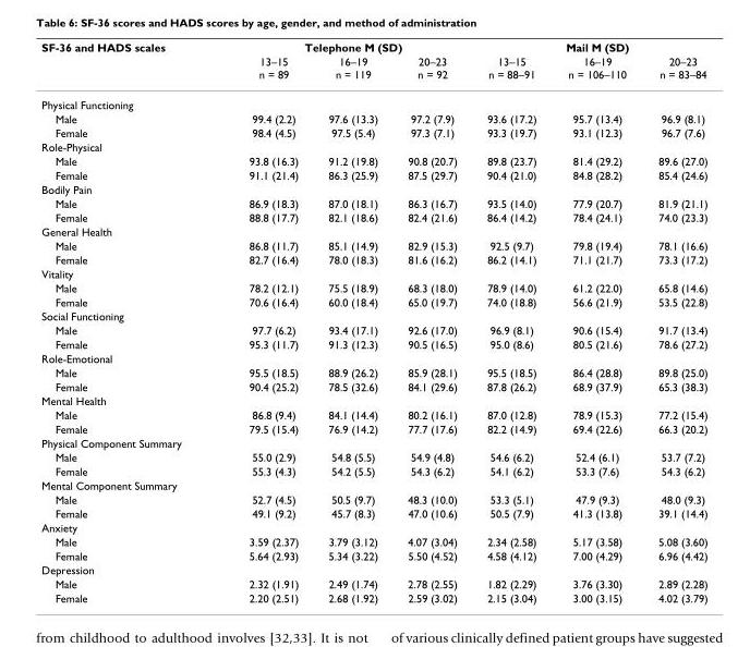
<table><thead><tr><td rowspan="2">SF-36 and HADS scales</td><td colspan="3">Telephone M (SD)</td><td colspan="3">Mail M (SD)</td></tr><tr><td>13–15 n = 89</td><td>16–19 n = 119</td><td>20–23 n = 92</td><td>13–15 n = 88–91</td><td>16–19 n = 106–110</td><td>20–23 n = 83–84</td></tr></thead><tbody><tr><td colspan="7">Physical Functioning</td></tr><tr><td>Male</td><td>99.4 (2.2)</td><td>97.6 (13.3)</td><td>97.2 (7.9)</td><td>93.6 (17.2)</td><td>95.7 (13.4)</td><td>96.9 (8.1)</td></tr><tr><td>Female</td><td>98.4 (4.5)</td><td>97.5 (5.4)</td><td>97.3 (7.1)</td><td>93.3 (19.7)</td><td>93.1 (12.3)</td><td>96.7 (7.6)</td></tr><tr><td colspan="7">Role-Physical</td></tr><tr><td>Male</td><td>93.8 (16.3)</td><td>91.2 (19.8)</td><td>90.8 (20.7)</td><td>89.8 (23.7)</td><td>81.4 (29.2)</td><td>89.6 (27.0)</td></tr><tr><td>Female</td><td>91.1 (21.4)</td><td>86.3 (25.9)</td><td>87.5 (29.7)</td><td>90.4 (21.0)</td><td>84.8 (28.2)</td><td>85.4 (24.6)</td></tr><tr><td colspan="7">Bodily Pain</td></tr><tr><td>Male</td><td>86.9 (18.3)</td><td>87.0 (18.1)</td><td>86.3 (16.7)</td><td>93.5 (14.0)</td><td>77.9 (20.7)</td><td>81.9 (21.1)</td></tr><tr><td>Female</td><td>88.8 (17.7)</td><td>82.1 (18.6)</td><td>82.4 (21.6)</td><td>86.4 (14.2)</td><td>78.4 (24.1)</td><td>74.0 (23.3)</td></tr><tr><td colspan="7">General Health</td></tr><tr><td>Male</td><td>86.8 (11.7)</td><td>85.1 (14.9)</td><td>82.9 (15.3)</td><td>92.5 (9.7)</td><td>79.8 (19.4)</td><td>78.1 (16.6)</td></tr><tr><td>Female</td><td>82.7 (16.4)</td><td>78.0 (18.3)</td><td>81.6 (16.2)</td><td>86.2 (14.1)</td><td>71.1 (21.7)</td><td>73.3 (17.2)</td></tr><tr><td colspan="7">Vitality</td></tr><tr><td>Male</td><td>78.2 (12.1)</td><td>75.5 (18.9)</td><td>68.3 (18.0)</td><td>78.9 (14.0)</td><td>61.2 (22.0)</td><td>65.8 (14.6)</td></tr><tr><td>Female</td><td>70.6 (16.4)</td><td>60.0 (18.4)</td><td>65.0 (19.7)</td><td>74.0 (18.8)</td><td>56.6 (21.9)</td><td>53.5 (22.8)</td></tr><tr><td colspan="7">Social Functioning</td></tr><tr><td>Male</td><td>97.7 (6.2)</td><td>93.4 (17.1)</td><td>92.6 (17.0)</td><td>96.9 (8.1)</td><td>90.6 (15.4)</td><td>91.7 (13.4)</td></tr><tr><td>Female</td><td>95.3 (11.7)</td><td>91.3 (12.3)</td><td>90.5 (16.5)</td><td>95.0 (8.6)</td><td>80.5 (21.6)</td><td>78.6 (27.2)</td></tr><tr><td colspan="7">Role-Emotional</td></tr><tr><td>Male</td><td>95.5 (18.5)</td><td>88.9 (26.2)</td><td>85.9 (28.1)</td><td>95.5 (18.5)</td><td>86.4 (28.8)</td><td>89.8 (25.0)</td></tr><tr><td>Female</td><td>90.4 (25.2)</td><td>78.5 (32.6)</td><td>84.1 (29.6)</td><td>87.8 (26.2)</td><td>68.9 (37.9)</td><td>65.3 (38.3)</td></tr><tr><td colspan="7">Mental Health</td></tr><tr><td>Male</td><td>86.8 (9.4)</td><td>84.1 (14.4)</td><td>80.2 (16.1)</td><td>87.0 (12.8)</td><td>78.9 (15.3)</td><td>77.2 (15.4)</td></tr><tr><td>Female</td><td>79.5 (15.4)</td><td>76.9 (14.2)</td><td>77.7 (17.6)</td><td>82.2 (14.9)</td><td>69.4 (22.6)</td><td>66.3 (20.2)</td></tr><tr><td colspan="7">Physical Component Summary</td></tr><tr><td>Male</td><td>55.0 (2.9)</td><td>54.8 (5.5)</td><td>54.9 (4.8)</td><td>54.6 (6.2)</td><td>52.4 (6.1)</td><td>53.7 (7.2)</td></tr><tr><td>Female</td><td>55.3 (4.3)</td><td>54.2 (5.5)</td><td>54.3 (6.2)</td><td>54.1 (6.2)</td><td>53.3 (7.6)</td><td>54.3 (6.2)</td></tr><tr><td colspan="7">Mental Component Summary</td></tr><tr><td>Male</td><td>52.7 (4.5)</td><td>50.5 (9.7)</td><td>48.3 (10.0)</td><td>53.3 (5.1)</td><td>47.9 (9.3)</td><td>48.0 (9.3)</td></tr><tr><td>Female</td><td>49.1 (9.2)</td><td>45.7 (8.3)</td><td>47.0 (10.6)</td><td>50.5 (7.9)</td><td>41.3 (13.8)</td><td>39.1 (14.4)</td></tr><tr><td colspan="7">Anxiety</td></tr><tr><td>Male</td><td>3.59 (2.37)</td><td>3.79 (3.12)</td><td>4.07 (3.04)</td><td>2.34 (2.58)</td><td>5.17 (3.58)</td><td>5.08 (3.60)</td></tr><tr><td>Female</td><td>5.64 (2.93)</td><td>5.34 (3.22)</td><td>5.50 (4.52)</td><td>4.58 (4.12)</td><td>7.00 (4.29)</td><td>6.96 (4.42)</td></tr><tr><td colspan="7">Depression</td></tr><tr><td>Male</td><td>2.32 (1.91)</td><td>2.49 (1.74)</td><td>2.78 (2.55)</td><td>1.82 (2.29)</td><td>3.76 (3.30)</td><td>2.89 (2.28)</td></tr><tr><td>Female</td><td>2.20 (2.51)</td><td>2.68 (1.92)</td><td>2.59 (3.02)</td><td>2.15 (3.04)</td><td>3.00 (3.15)</td><td>4.02 (3.79)</td></tr></tbody></table>